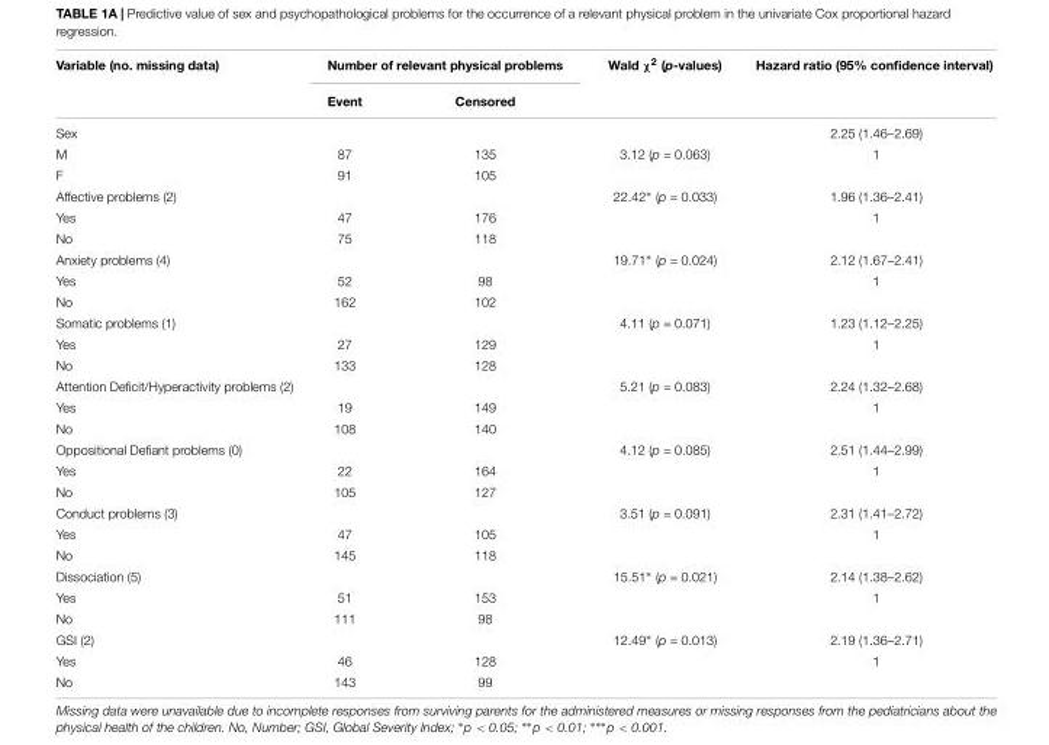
<table><thead><tr><td rowspan="2">Variable (no. missing data)</td><td colspan="2">Number of relevant physical problems</td><td rowspan="2">Wald χ<sup>2</sup> (p-values)</td><td rowspan="2">Hazard ratio (95% confidence interval)</td></tr><tr><td>Event</td><td>Censored</td></tr></thead><tbody><tr><td>Sex</td><td></td><td></td><td></td><td>2.25 (1.46–2.69)</td></tr><tr><td>M</td><td>87</td><td>135</td><td>3.12 (p = 0.063)</td><td>1</td></tr><tr><td>F</td><td>91</td><td>105</td><td></td><td></td></tr><tr><td>Affective problems (2)</td><td></td><td></td><td>22.42∗ (p = 0.033)</td><td>1.96 (1.36–2.41)</td></tr><tr><td>Yes</td><td>47</td><td>176</td><td></td><td>1</td></tr><tr><td>No</td><td>75</td><td>118</td><td></td><td></td></tr><tr><td>Anxiety problems (4)</td><td></td><td></td><td>19.71∗ (p = 0.024)</td><td>2.12 (1.67–2.41)</td></tr><tr><td>Yes</td><td>52</td><td>98</td><td></td><td>1</td></tr><tr><td>No</td><td>162</td><td>102</td><td></td><td></td></tr><tr><td>Somatic problems (1)</td><td></td><td></td><td>4.11 (p = 0.071)</td><td>1.23 (1.12–2.25)</td></tr><tr><td>Yes</td><td>27</td><td>129</td><td></td><td>1</td></tr><tr><td>No</td><td>133</td><td>128</td><td></td><td></td></tr><tr><td>Attention Deficit/Hyperactivity problems (2)</td><td></td><td></td><td>5.21 (p = 0.083)</td><td>2.24 (1.32–2.68)</td></tr><tr><td>Yes</td><td>19</td><td>149</td><td></td><td>1</td></tr><tr><td>No</td><td>108</td><td>140</td><td></td><td></td></tr><tr><td>Oppositional Defiant problems (0)</td><td></td><td></td><td>4.12 (p = 0.085)</td><td>2.51 (1.44–2.99)</td></tr><tr><td>Yes</td><td>22</td><td>164</td><td></td><td>1</td></tr><tr><td>No</td><td>105</td><td>127</td><td></td><td></td></tr><tr><td>Conduct problems (3)</td><td></td><td></td><td>3.51 (p = 0.091)</td><td>2.31 (1.41–2.72)</td></tr><tr><td>Yes</td><td>47</td><td>105</td><td></td><td>1</td></tr><tr><td>No</td><td>145</td><td>118</td><td></td><td></td></tr><tr><td>Dissociation (5)</td><td></td><td></td><td>15.51∗ (p = 0.021)</td><td>2.14 (1.38–2.62)</td></tr><tr><td>Yes</td><td>51</td><td>153</td><td></td><td>1</td></tr><tr><td>No</td><td>111</td><td>98</td><td></td><td></td></tr><tr><td>GSI (2)</td><td></td><td></td><td>12.49∗ (p = 0.013)</td><td>2.19 (1.36–2.71)</td></tr><tr><td>Yes</td><td>46</td><td>128</td><td></td><td>1</td></tr><tr><td>No</td><td>143</td><td>99</td><td></td><td></td></tr></tbody></table>